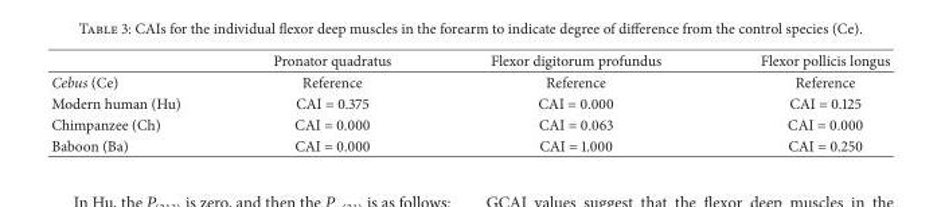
<table><thead><tr><td></td><td>Pronator quadratus</td><td>Flexor digitorum profundus</td><td>Flexor pollicis longus</td></tr></thead><tbody><tr><td>Cebus (Ce)</td><td>Reference</td><td>Reference</td><td>Reference</td></tr><tr><td>Modern human (Hu)</td><td>CAI = 0.375</td><td>CAI = 0.000</td><td>CAI = 0.125</td></tr><tr><td>Chimpanzee (Ch)</td><td>CAI = 0.000</td><td>CAI = 0.063</td><td>CAI = 0.000</td></tr><tr><td>Baboon (Ba)</td><td>CAI = 0.000</td><td>CAI = 1.000</td><td>CAI = 0.250</td></tr></tbody></table>